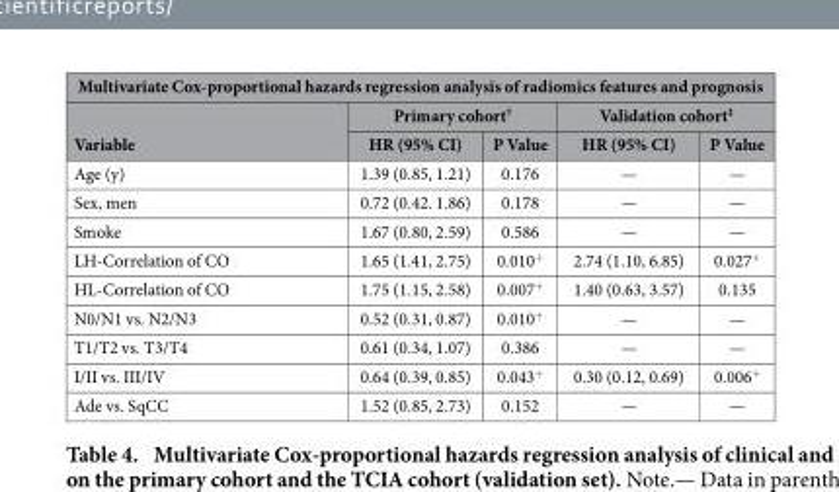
<table><thead><tr><td colspan="5">Multivariate Cox-proportional hazards regression analysis of radiomics features and prognosis</td></tr><tr><td rowspan="2">Variable</td><td colspan="2">Primary cohort<sup>†</sup></td><td colspan="2">Validation cohort<sup>‡</sup></td></tr><tr><td>HR (95% CI)</td><td>P Value</td><td>HR (95% CI)</td><td>P Value</td></tr></thead><tbody><tr><td>Age (y)</td><td>1.39 (0.85, 1.21)</td><td>0.176</td><td>—</td><td>—</td></tr><tr><td>Sex, men</td><td>0.72 (0.42. 1.86)</td><td>0.178</td><td>—</td><td>—</td></tr><tr><td>Smoke</td><td>1.67 (0.80, 2.59)</td><td>0.586</td><td>—</td><td>—</td></tr><tr><td>LH-Correlation of CO</td><td>1.65 (1.41, 2.75)</td><td>0.010<sup>+</sup></td><td>2.74 (1.10, 6.85)</td><td>0.027<sup>+</sup></td></tr><tr><td>HL-Correlation of CO</td><td>1.75 (1.15, 2.58)</td><td>0.007<sup>+</sup></td><td>1.40 (0.63, 3.57)</td><td>0.135</td></tr><tr><td>N0/N1 vs. N2/N3</td><td>0.52 (0.31, 0.87)</td><td>0.010<sup>+</sup></td><td>—</td><td>—</td></tr><tr><td>T1/T2 vs. T3/T4</td><td>0.61 (0.34, 1.07)</td><td>0.386</td><td>—</td><td>—</td></tr><tr><td>I/II vs. III/IV</td><td>0.64 (0.39, 0.85)</td><td>0.043<sup>+</sup></td><td>0.30 (0.12, 0.69)</td><td>0.006<sup>+</sup></td></tr><tr><td>Ade vs. SqCC</td><td>1.52 (0.85, 2.73)</td><td>0.152</td><td>—</td><td>—</td></tr></tbody></table>